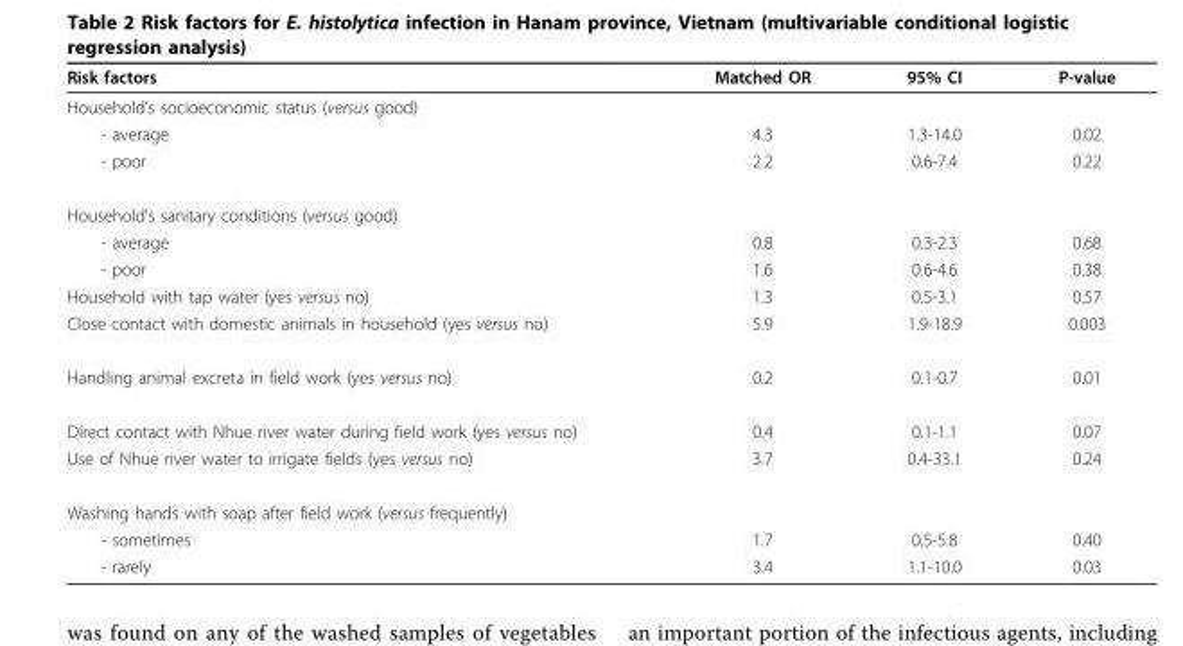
<table><thead><tr><td>Risk factors</td><td>Matched OR</td><td>95% CI</td><td>P-value</td></tr></thead><tbody><tr><td colspan="4">Household’s socioeconomic status (versus good)</td></tr><tr><td>- average</td><td>4.3</td><td>1.3-14.0</td><td>0.02</td></tr><tr><td>- poor</td><td>2.2</td><td>0.6-7.4</td><td>0.22</td></tr><tr><td colspan="4">Household’s sanitary conditions (versus good)</td></tr><tr><td>- average</td><td>0.8</td><td>0.3-2.3</td><td>0.68</td></tr><tr><td>- poor</td><td>1.6</td><td>0.6-4.6</td><td>0.38</td></tr><tr><td>Household with tap water (yes versus no)</td><td>1.3</td><td>0.5-3.1</td><td>0.57</td></tr><tr><td>Close contact with domestic animals in household (yes versus no)</td><td>5.9</td><td>1.9-18.9</td><td>0.003</td></tr><tr><td>Handling animal excreta in field work (yes versus no)</td><td>0.2</td><td>0.1-0.7</td><td>0.01</td></tr><tr><td>Direct contact with Nhue river water during field work (yes versus no)</td><td>0.4</td><td>0.1-1.1</td><td>0.07</td></tr><tr><td>Use of Nhue river water to irrigate fields (yes versus no)</td><td>3.7</td><td>0.4-33.1</td><td>0.24</td></tr><tr><td colspan="4">Washing hands with soap after field work (versus frequently)</td></tr><tr><td>- sometimes</td><td>1.7</td><td>0.5-5.8</td><td>0.40</td></tr><tr><td>- rarely</td><td>3.4</td><td>1.1-10.0</td><td>0.03</td></tr></tbody></table>